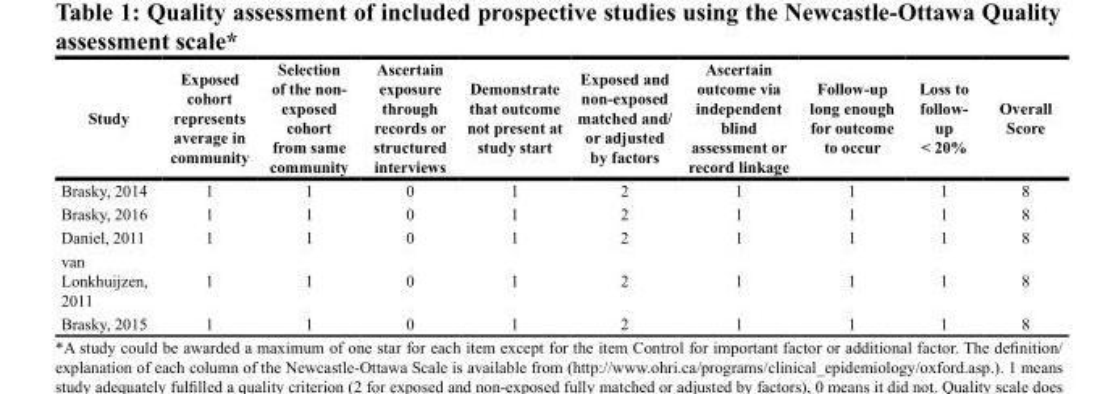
<table><thead><tr><td>Study</td><td>Exposed cohort represents average in community</td><td>Selection of the non- exposed cohort from same community</td><td>Ascertain exposure through records or structured interviews</td><td>Demonstrate that outcome not present at study start</td><td>Exposed and non-exposed matched and/ or adjusted by factors</td><td>Ascertain outcome via independent blind assessment or record linkage</td><td>Follow-up long enough for outcome to occur</td><td>Loss to follow- up &lt; 20%</td><td>Overall Score</td></tr></thead><tbody><tr><td>Brasky, 2014</td><td>1</td><td>1</td><td>0</td><td>1</td><td>2</td><td>1</td><td>1</td><td>1</td><td>8</td></tr><tr><td>Brasky, 2016</td><td>1</td><td>1</td><td>0</td><td>1</td><td>2</td><td>1</td><td>1</td><td>1</td><td>8</td></tr><tr><td>Daniel, 2011</td><td>1</td><td>1</td><td>0</td><td>1</td><td>2</td><td>1</td><td>1</td><td>1</td><td>8</td></tr><tr><td>van Lonkhuijzen, 2011</td><td>1</td><td>1</td><td>0</td><td>1</td><td>2</td><td>1</td><td>1</td><td>1</td><td>8</td></tr><tr><td>Brasky, 2015</td><td>1</td><td>1</td><td>0</td><td>1</td><td>2</td><td>1</td><td>1</td><td>1</td><td>8</td></tr></tbody></table>